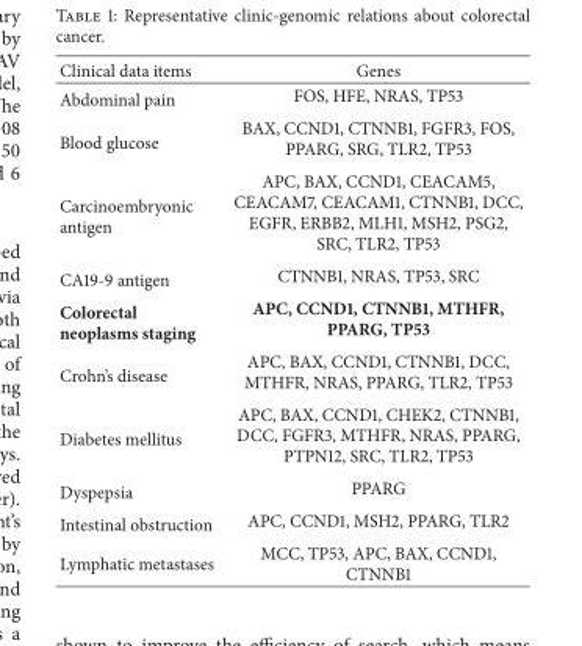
<table><thead><tr><td>Clinical data items</td><td>Genes</td></tr></thead><tbody><tr><td>Abdominal pain</td><td>FOS, HFE, NRAS, TP53</td></tr><tr><td>Blood glucose</td><td>BAX, CCND1, CTNNB1, FGFR3, FOS, PPARG, SRG, TLR2, TP53</td></tr><tr><td>Carcinoembryonic antigen</td><td>APC, BAX, CCND1, CEACAM5, CEACAM7, CEACAM1, CTNNB1, DCC, EGFR, ERBB2, MLH1, MSH2, PSG2, SRC, TLR2, TP53</td></tr><tr><td>CA19-9 antigen</td><td>CTNNB1, NRAS, TP53, SRC</td></tr><tr><td>Colorectal neoplasms staging</td><td>APC, CCND1, CTNNB1, MTHFR, PPARG, TP53</td></tr><tr><td>Crohn’s disease</td><td>APC, BAX, CCND1, CTNNB1, DCC, MTHFR, NRAS, PPARG, TLR2, TP53</td></tr><tr><td>Diabetes mellitus</td><td>APC, BAX, CCND1, CHEK2, CTNNB1, DCC, FGFR3, MTHFR, NRAS, PPARG, PTPN12, SRC, TLR2, TP53</td></tr><tr><td>Dyspepsia</td><td>PPARG</td></tr><tr><td>Intestinal obstruction</td><td>APC, CCND1, MSH2, PPARG, TLR2</td></tr><tr><td>Lymphatic metastases</td><td>MCC, TP53, APC, BAX, CCND1, CTNNB1</td></tr></tbody></table>